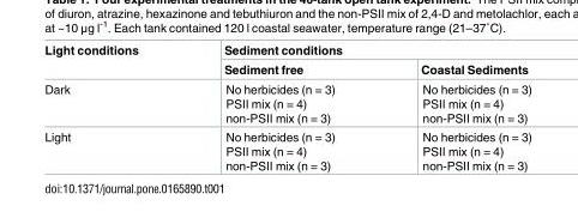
<table><thead><tr><td rowspan="2">Light conditions</td><td colspan="2">Sediment conditions</td></tr><tr><td>Sediment free</td><td>Coastal Sediments</td></tr></thead><tbody><tr><td>Dark</td><td>No herbicides (n = 3) PSII mix (n = 4) non-PSII mix (n = 3)</td><td>No herbicides (n = 3) PSII mix (n = 4) non-PSII mix (n = 3)</td></tr><tr><td>Light</td><td>No herbicides (n = 3) PSII mix (n = 4) non-PSII mix (n = 3)</td><td>No herbicides (n = 3) PSII mix (n = 4) non-PSII mix (n = 3)</td></tr></tbody></table>